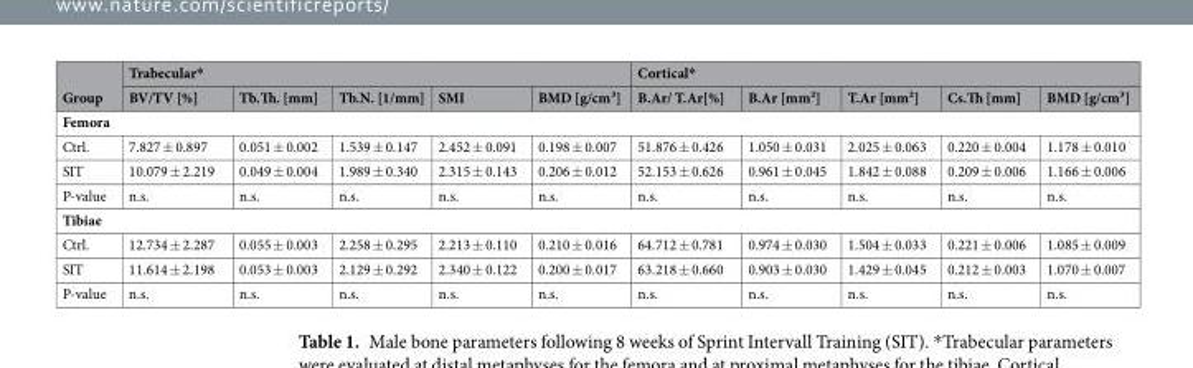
<table><thead><tr><td rowspan="2">Group</td><td colspan="5">Trabecular*</td><td colspan="5">Cortical*</td></tr><tr><td>BV/TV [%]</td><td>Tb.Th. [mm]</td><td>Tb.N. [1/mm]</td><td>SMI</td><td>BMD [g/cm³]</td><td>B.Ar/ T.Ar[%]</td><td>B.Ar [mm²]</td><td>T.Ar [mm²]</td><td>Cs.Th [mm]</td><td>BMD [g/cm³]</td></tr></thead><tbody><tr><td colspan="11">Femora</td></tr><tr><td>Ctrl.</td><td>7.827 ± 0.897</td><td>0.051 ± 0.002</td><td>1.539 ± 0.147</td><td>2.452 ± 0.091</td><td>0.198 ± 0.007</td><td>51.876 ± 0.426</td><td>1.050 ± 0.031</td><td>2.025 ± 0.063</td><td>0.220 ± 0.004</td><td>1.178 ± 0.010</td></tr><tr><td>SIT</td><td>10.079 ± 2.219</td><td>0.049 ± 0.004</td><td>1.989 ± 0.340</td><td>2.315 ± 0.143</td><td>0.206 ± 0.012</td><td>52.153 ± 0.626</td><td>0.961 ± 0.045</td><td>1.842 ± 0.088</td><td>0.209 ± 0.006</td><td>1.166 ± 0.006</td></tr><tr><td>P-value</td><td>n.s.</td><td>n.s.</td><td>n.s.</td><td>n.s.</td><td>n.s.</td><td>n.s.</td><td>n.s.</td><td>n.s.</td><td>n.s.</td><td>n.s.</td></tr><tr><td colspan="11">Tibiae</td></tr><tr><td>Ctrl.</td><td>12.734 ± 2.287</td><td>0.055 ± 0.003</td><td>2.258 ± 0.295</td><td>2.213 ± 0.110</td><td>0.210 ± 0.016</td><td>64.712 ± 0.781</td><td>0.974 ± 0.030</td><td>1.504 ± 0.033</td><td>0.221 ± 0.006</td><td>1.085 ± 0.009</td></tr><tr><td>SIT</td><td>11.614 ± 2.198</td><td>0.053 ± 0.003</td><td>2.129 ± 0.292</td><td>2.340 ± 0.122</td><td>0.200 ± 0.017</td><td>63.218 ± 0.660</td><td>0.903 ± 0.030</td><td>1.429 ± 0.045</td><td>0.212 ± 0.003</td><td>1.070 ± 0.007</td></tr><tr><td>P-value</td><td>n.s.</td><td>n.s.</td><td>n.s.</td><td>n.s.</td><td>n.s.</td><td>n.s.</td><td>n.s.</td><td>n.s.</td><td>n.s.</td><td>n.s.</td></tr></tbody></table>